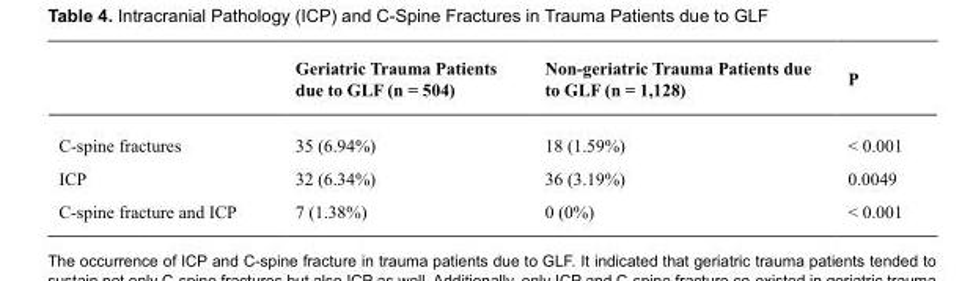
<table><thead><tr><td></td><td>Geriatric Trauma Patients due to GLF (n = 504)</td><td>Non-geriatric Trauma Patients due to GLF (n = 1,128)</td><td>P</td></tr></thead><tbody><tr><td>C-spine fractures</td><td>35 (6.94%)</td><td>18 (1.59%)</td><td>&lt; 0.001</td></tr><tr><td>ICP</td><td>32 (6.34%)</td><td>36 (3.19%)</td><td>0.0049</td></tr><tr><td>C-spine fracture and ICP</td><td>7 (1.38%)</td><td>0 (0%)</td><td>&lt; 0.001</td></tr></tbody></table>